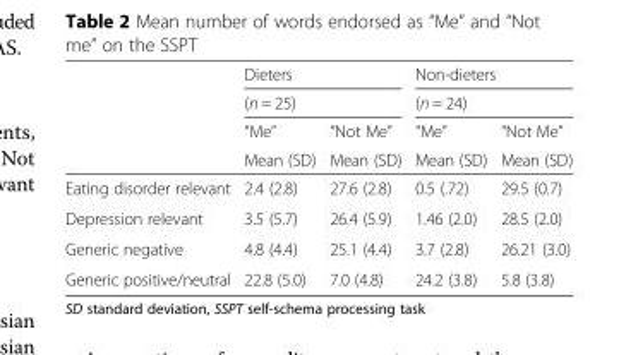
<table><thead><tr><td rowspan="4"></td><td rowspan="2" colspan="2">Dieters (n = 25)</td><td rowspan="2" colspan="2">Non-dieters (n = 24)</td></tr><tr></tr><tr><td rowspan="2">“Me” Mean (SD)</td><td rowspan="2">“Not Me” Mean (SD)</td><td rowspan="2">“Me” Mean (SD)</td><td rowspan="2">“Not Me” Mean (SD)</td></tr><tr></tr></thead><tbody><tr><td>Eating disorder relevant</td><td>2.4 (2.8)</td><td>27.6 (2.8)</td><td>0.5 (.72)</td><td>29.5 (0.7)</td></tr><tr><td>Depression relevant</td><td>3.5 (5.7)</td><td>26.4 (5.9)</td><td>1.46 (2.0)</td><td>28.5 (2.0)</td></tr><tr><td>Generic negative</td><td>4.8 (4.4)</td><td>25.1 (4.4)</td><td>3.7 (2.8)</td><td>26.21 (3.0)</td></tr><tr><td>Generic positive/neutral</td><td>22.8 (5.0)</td><td>7.0 (4.8)</td><td>24.2 (3.8)</td><td>5.8 (3.8)</td></tr></tbody></table>